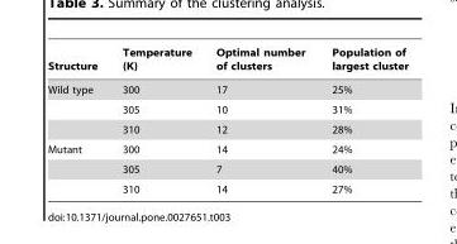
<table><thead><tr><td>Structure</td><td>Temperature (K)</td><td>Optimal number of clusters</td><td>Population of largest cluster</td></tr></thead><tbody><tr><td rowspan="3">Wild type</td><td>300</td><td>17</td><td>25%</td></tr><tr><td>305</td><td>10</td><td>31%</td></tr><tr><td>310</td><td>12</td><td>28%</td></tr><tr><td rowspan="3">Mutant</td><td>300</td><td>14</td><td>24%</td></tr><tr><td>305</td><td>7</td><td>40%</td></tr><tr><td>310</td><td>14</td><td>27%</td></tr></tbody></table>